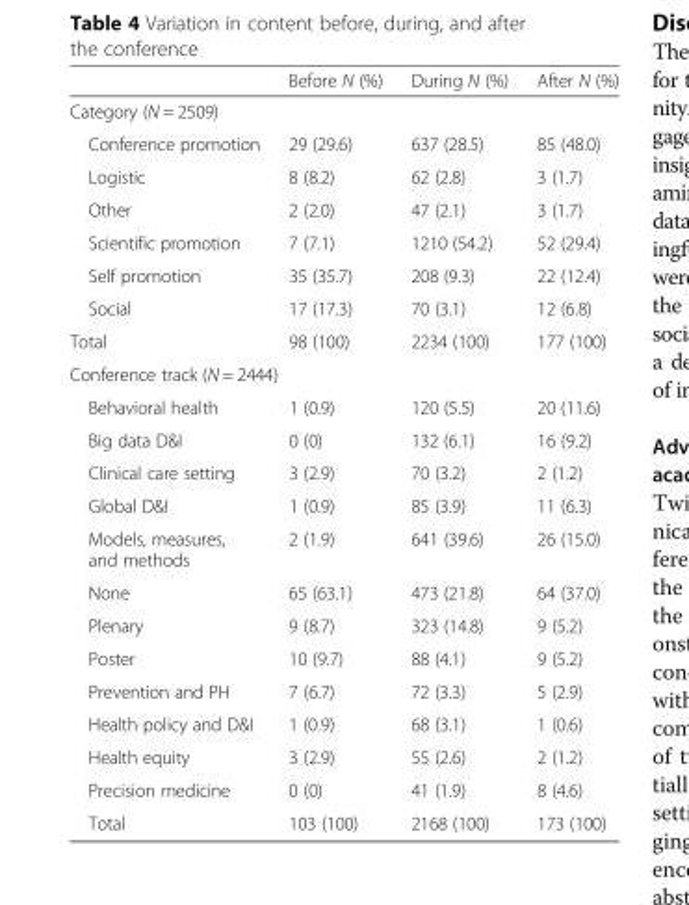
<table><thead><tr><td></td><td>Before N (%)</td><td>During N (%)</td><td>After N (%)</td></tr></thead><tbody><tr><td colspan="4">Category (N = 2509)</td></tr><tr><td>Conference promotion</td><td>29 (29.6)</td><td>637 (28.5)</td><td>85 (48.0)</td></tr><tr><td>Logistic</td><td>8 (8.2)</td><td>62 (2.8)</td><td>3 (1.7)</td></tr><tr><td>Other</td><td>2 (2.0)</td><td>47 (2.1)</td><td>3 (1.7)</td></tr><tr><td>Scientific promotion</td><td>7 (7.1)</td><td>1210 (54.2)</td><td>52 (29.4)</td></tr><tr><td>Self promotion</td><td>35 (35.7)</td><td>208 (9.3)</td><td>22 (12.4)</td></tr><tr><td>Social</td><td>17 (17.3)</td><td>70 (3.1)</td><td>12 (6.8)</td></tr><tr><td>Total</td><td>98 (100)</td><td>2234 (100)</td><td>177 (100)</td></tr><tr><td colspan="4">Conference track (N = 2444)</td></tr><tr><td>Behavioral health</td><td>1 (0.9)</td><td>120 (5.5)</td><td>20 (11.6)</td></tr><tr><td>Big data D&amp;I</td><td>0 (0)</td><td>132 (6.1)</td><td>16 (9.2)</td></tr><tr><td>Clinical care setting</td><td>3 (2.9)</td><td>70 (3.2)</td><td>2 (1.2)</td></tr><tr><td>Global D&amp;I</td><td>1 (0.9)</td><td>85 (3.9)</td><td>11 (6.3)</td></tr><tr><td>Models, measures, and methods</td><td>2 (1.9)</td><td>641 (39.6)</td><td>26 (15.0)</td></tr><tr><td>None</td><td>65 (63.1)</td><td>473 (21.8)</td><td>64 (37.0)</td></tr><tr><td>Plenary</td><td>9 (8.7)</td><td>323 (14.8)</td><td>9 (5.2)</td></tr><tr><td>Poster</td><td>10 (9.7)</td><td>88 (4.1)</td><td>9 (5.2)</td></tr><tr><td>Prevention and PH</td><td>7 (6.7)</td><td>72 (3.3)</td><td>5 (2.9)</td></tr><tr><td>Health policy and D&amp;I</td><td>1 (0.9)</td><td>68 (3.1)</td><td>1 (0.6)</td></tr><tr><td>Health equity</td><td>3 (2.9)</td><td>55 (2.6)</td><td>2 (1.2)</td></tr><tr><td>Precision medicine</td><td>0 (0)</td><td>41 (1.9)</td><td>8 (4.6)</td></tr><tr><td>Total</td><td>103 (100)</td><td>2168 (100)</td><td>173 (100)</td></tr></tbody></table>